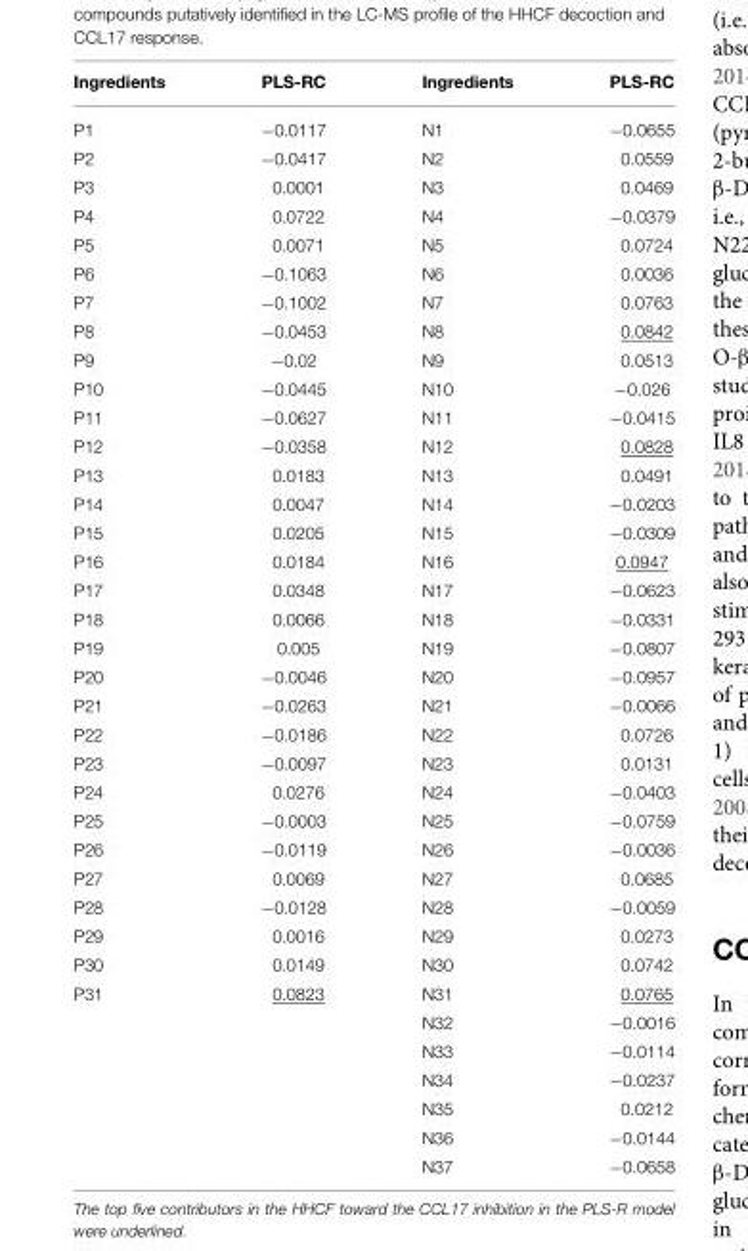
<table><thead><tr><td>Ingredients</td><td>PLS-RC</td><td>Ingredients</td><td>PLS-RC</td></tr></thead><tbody><tr><td>P1</td><td>−0.0117</td><td>N1</td><td>−0.0655</td></tr><tr><td>P2</td><td>−0.0417</td><td>N2</td><td>0.0559</td></tr><tr><td>P3</td><td>0.0001</td><td>N3</td><td>0.0469</td></tr><tr><td>P4</td><td>0.0722</td><td>N4</td><td>−0.0379</td></tr><tr><td>P5</td><td>0.0071</td><td>N5</td><td>0.0724</td></tr><tr><td>P6</td><td>−0.1063</td><td>N6</td><td>0.0036</td></tr><tr><td>P7</td><td>−0.1002</td><td>N7</td><td>0.0763</td></tr><tr><td>P8</td><td>−0.0453</td><td>N8</td><td>0.0842</td></tr><tr><td>P9</td><td>−0.02</td><td>N9</td><td>0.0513</td></tr><tr><td>P10</td><td>−0.0445</td><td>N10</td><td>−0.026</td></tr><tr><td>P11</td><td>−0.0627</td><td>N11</td><td>−0.0415</td></tr><tr><td>P12</td><td>−0.0358</td><td>N12</td><td>0.0828</td></tr><tr><td>P13</td><td>0.0183</td><td>N13</td><td>0.0491</td></tr><tr><td>P14</td><td>0.0047</td><td>N14</td><td>−0.0203</td></tr><tr><td>P15</td><td>0.0205</td><td>N15</td><td>−0.0309</td></tr><tr><td>P16</td><td>0.0184</td><td>N16</td><td>0.0947</td></tr><tr><td>P17</td><td>0.0348</td><td>N17</td><td>−0.0623</td></tr><tr><td>P18</td><td>0.0066</td><td>N18</td><td>−0.0331</td></tr><tr><td>P19</td><td>0.005</td><td>N19</td><td>−0.0807</td></tr><tr><td>P20</td><td>−0.0046</td><td>N20</td><td>−0.0957</td></tr><tr><td>P21</td><td>−0.0263</td><td>N21</td><td>−0.0066</td></tr><tr><td>P22</td><td>−0.0186</td><td>N22</td><td>0.0726</td></tr><tr><td>P23</td><td>−0.0097</td><td>N23</td><td>0.0131</td></tr><tr><td>P24</td><td>0.0276</td><td>N24</td><td>−0.0403</td></tr><tr><td>P25</td><td>−0.0003</td><td>N25</td><td>−0.0759</td></tr><tr><td>P26</td><td>−0.0119</td><td>N26</td><td>−0.0036</td></tr><tr><td>P27</td><td>0.0069</td><td>N27</td><td>0.0685</td></tr><tr><td>P28</td><td>−0.0128</td><td>N28</td><td>−0.0059</td></tr><tr><td>P29</td><td>0.0016</td><td>N29</td><td>0.0273</td></tr><tr><td>P30</td><td>0.0149</td><td>N30</td><td>0.0742</td></tr><tr><td rowspan="7">P31</td><td>0.0823</td><td>N31</td><td>0.0765</td></tr><tr><td></td><td>N32</td><td>−0.0016</td></tr><tr><td></td><td>N33</td><td>−0.0114</td></tr><tr><td></td><td>N34</td><td>−0.0237</td></tr><tr><td></td><td>N35</td><td>0.0212</td></tr><tr><td></td><td>N36</td><td>−0.0144</td></tr><tr><td></td><td>N37</td><td>−0.0658</td></tr></tbody></table>